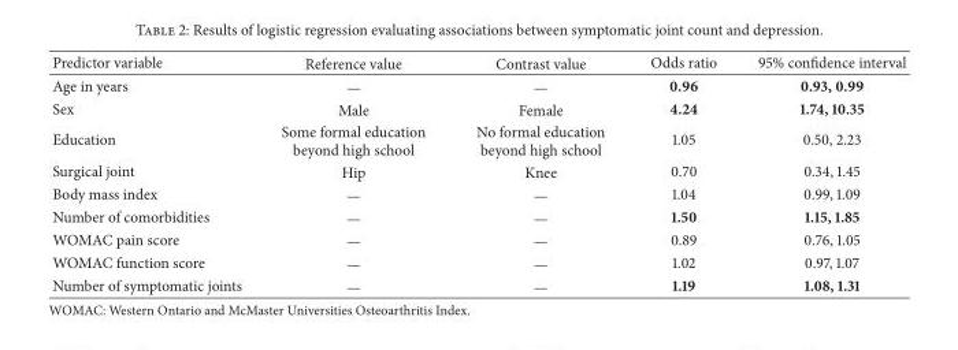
<table><thead><tr><td>Predictor variable</td><td>Reference value</td><td>Contrast value</td><td>Odds ratio</td><td>95% confidence interval</td></tr></thead><tbody><tr><td>Age in years</td><td>—</td><td>—</td><td>0.96</td><td>0.93, 0.99</td></tr><tr><td>Sex</td><td>Male</td><td>Female</td><td>4.24</td><td>1.74, 10.35</td></tr><tr><td>Education</td><td>Some formal education beyond high school</td><td>No formal education beyond high school</td><td>1.05</td><td>0.50, 2.23</td></tr><tr><td>Surgical joint</td><td>Hip</td><td>Knee</td><td>0.70</td><td>0.34, 1.45</td></tr><tr><td>Body mass index</td><td>—</td><td>—</td><td>1.04</td><td>0.99, 1.09</td></tr><tr><td>Number of comorbidities</td><td>—</td><td>—</td><td>1.50</td><td>1.15, 1.85</td></tr><tr><td>WOMAC pain score</td><td>—</td><td>—</td><td>0.89</td><td>0.76, 1.05</td></tr><tr><td>WOMAC function score</td><td>—</td><td>—</td><td>1.02</td><td>0.97, 1.07</td></tr><tr><td>Number of symptomatic joints</td><td>—</td><td>—</td><td>1.19</td><td>1.08, 1.31</td></tr></tbody></table>